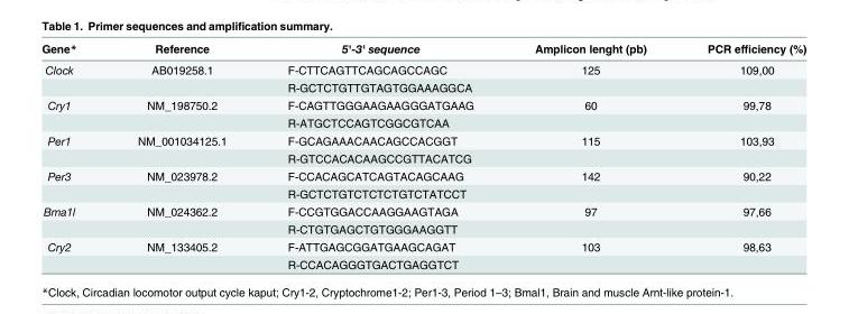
<table><thead><tr><td>Gene*</td><td>Reference</td><td>5&#x27;-3&#x27; sequence</td><td>Amplicon lenght (pb)</td><td>PCR efficiency (%)</td></tr></thead><tbody><tr><td rowspan="2">Clock</td><td>AB019258.1</td><td>F-CTTCAGTTCAGCAGCCAGC</td><td>125</td><td>109,00</td></tr><tr><td></td><td>R-GCTCTGTTGTAGTGGAAAGGCA</td><td></td><td></td></tr><tr><td rowspan="2">Cry1</td><td>NM_198750.2</td><td>F-CAGTTGGGAAGAAGGGATGAAG</td><td>60</td><td>99,78</td></tr><tr><td></td><td>R-ATGCTCCAGTCGGCGTCAA</td><td></td><td></td></tr><tr><td rowspan="2">Per1</td><td>NM_001034125.1</td><td>F-GCAGAAACAACAGCCACGGT</td><td>115</td><td>103,93</td></tr><tr><td></td><td>R-GTCCACACAAGCCGTTACATCG</td><td></td><td></td></tr><tr><td rowspan="2">Per3</td><td>NM_023978.2</td><td>F-CCACAGCATCAGTACAGCAAG</td><td>142</td><td>90,22</td></tr><tr><td></td><td>R-GCTCTGTCTCTCTGTCTATCCT</td><td></td><td></td></tr><tr><td rowspan="2">Bma1l</td><td>NM_024362.2</td><td>F-CCGTGGACCAAGGAAGTAGA</td><td>97</td><td>97,66</td></tr><tr><td></td><td>R-CTGTGAGCTGTGGGAAGGTT</td><td></td><td></td></tr><tr><td rowspan="2">Cry2</td><td>NM_133405.2</td><td>F-ATTGAGCGGATGAAGCAGAT</td><td>103</td><td>98,63</td></tr><tr><td></td><td>R-CCACAGGGTGACTGAGGTCT</td><td></td><td></td></tr></tbody></table>